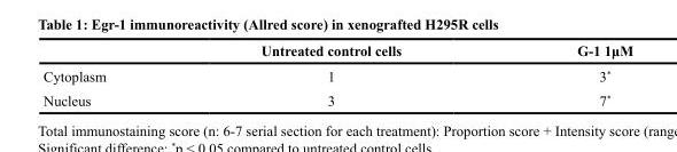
<table><thead><tr><td></td><td>Untreated control cells</td><td>G-1 1μM</td></tr></thead><tbody><tr><td>Cytoplasm</td><td>1</td><td>3*</td></tr><tr><td>Nucleus</td><td>3</td><td>7*</td></tr></tbody></table>